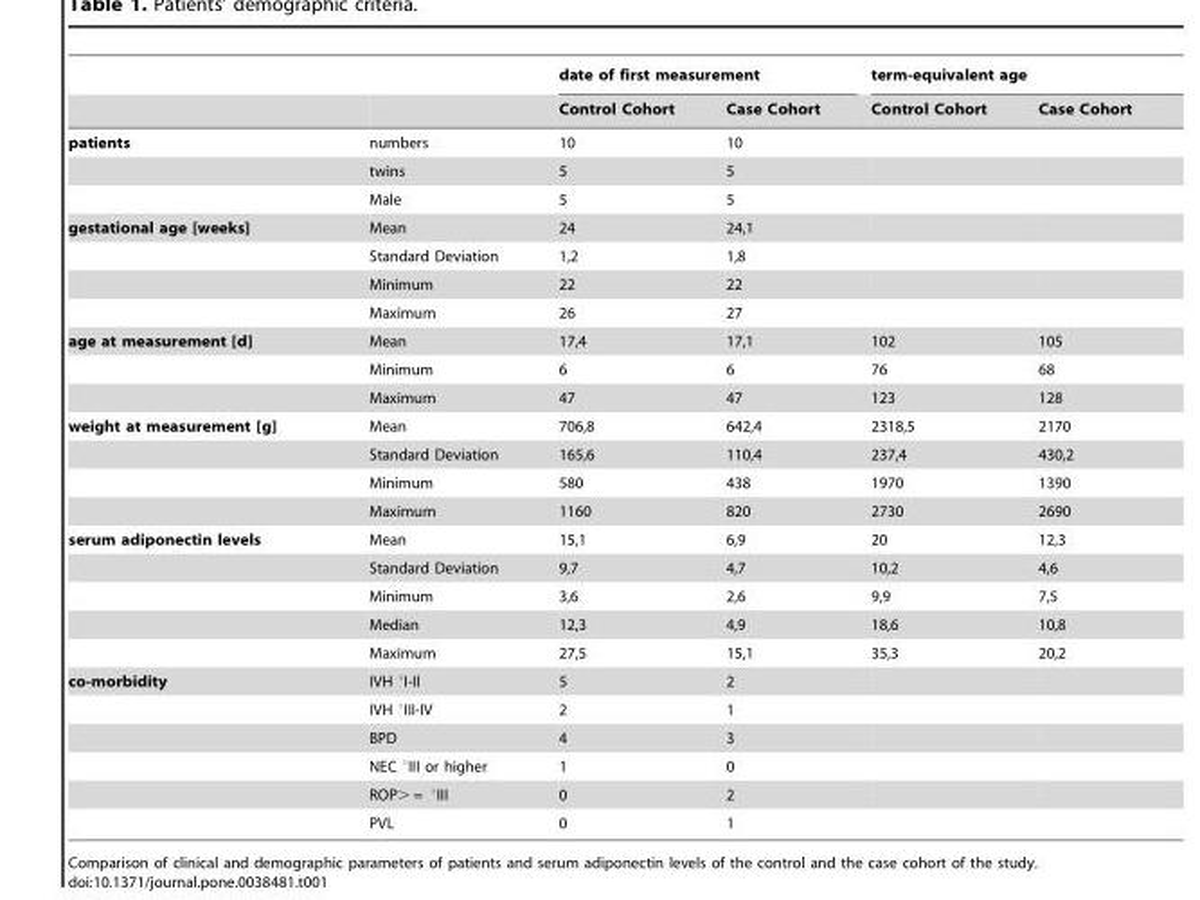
<table><thead><tr><td rowspan="2"></td><td rowspan="2"></td><td colspan="2">date of first measurement</td><td colspan="2">term-equivalent age</td></tr><tr><td>Control Cohort</td><td>Case Cohort</td><td>Control Cohort</td><td>Case Cohort</td></tr></thead><tbody><tr><td rowspan="3">patients</td><td>numbers</td><td>10</td><td>10</td><td></td><td></td></tr><tr><td>twins</td><td>5</td><td>5</td><td></td><td></td></tr><tr><td>Male</td><td>5</td><td>5</td><td></td><td></td></tr><tr><td rowspan="4">gestational age [weeks]</td><td>Mean</td><td>24</td><td>24,1</td><td></td><td></td></tr><tr><td>Standard Deviation</td><td>1,2</td><td>1,8</td><td></td><td></td></tr><tr><td>Minimum</td><td>22</td><td>22</td><td></td><td></td></tr><tr><td>Maximum</td><td>26</td><td>27</td><td></td><td></td></tr><tr><td rowspan="3">age at measurement [d]</td><td>Mean</td><td>17,4</td><td>17,1</td><td>102</td><td>105</td></tr><tr><td>Minimum</td><td>6</td><td>6</td><td>76</td><td>68</td></tr><tr><td>Maximum</td><td>47</td><td>47</td><td>123</td><td>128</td></tr><tr><td rowspan="4">weight at measurement [g]</td><td>Mean</td><td>706,8</td><td>642,4</td><td>2318,5</td><td>2170</td></tr><tr><td>Standard Deviation</td><td>165,6</td><td>110,4</td><td>237,4</td><td>430,2</td></tr><tr><td>Minimum</td><td>580</td><td>438</td><td>1970</td><td>1390</td></tr><tr><td>Maximum</td><td>1160</td><td>820</td><td>2730</td><td>2690</td></tr><tr><td rowspan="5">serum adiponectin levels</td><td>Mean</td><td>15,1</td><td>6,9</td><td>20</td><td>12,3</td></tr><tr><td>Standard Deviation</td><td>9,7</td><td>4,7</td><td>10,2</td><td>4,6</td></tr><tr><td>Minimum</td><td>3,6</td><td>2,6</td><td>9,9</td><td>7,5</td></tr><tr><td>Median</td><td>12,3</td><td>4,9</td><td>18,6</td><td>10,8</td></tr><tr><td>Maximum</td><td>27,5</td><td>15,1</td><td>35,3</td><td>20,2</td></tr><tr><td rowspan="6">co-morbidity</td><td>IVH °I-II</td><td>5</td><td>2</td><td></td><td></td></tr><tr><td>IVH °III-IV</td><td>2</td><td>1</td><td></td><td></td></tr><tr><td>BPD</td><td>4</td><td>3</td><td></td><td></td></tr><tr><td>NEC °III or higher</td><td>1</td><td>0</td><td></td><td></td></tr><tr><td>ROP&gt; = °III</td><td>0</td><td>2</td><td></td><td></td></tr><tr><td>PVL</td><td>0</td><td>1</td><td></td><td></td></tr></tbody></table>